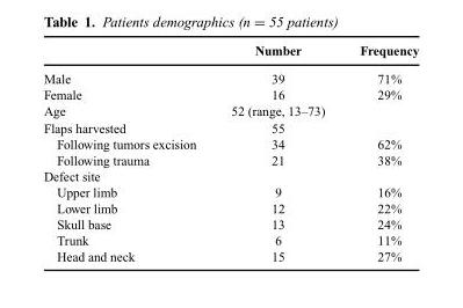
<table><thead><tr><td></td><td>Number</td><td>Frequency</td></tr></thead><tbody><tr><td>Male</td><td>39</td><td>71%</td></tr><tr><td>Female</td><td>16</td><td>29%</td></tr><tr><td>Age</td><td>52 (range, 13–73)</td><td></td></tr><tr><td>Flaps harvested</td><td>55</td><td></td></tr><tr><td>Following tumors excision</td><td>34</td><td>62%</td></tr><tr><td>Following trauma</td><td>21</td><td>38%</td></tr><tr><td colspan="3">Defect site</td></tr><tr><td>Upper limb</td><td>9</td><td>16%</td></tr><tr><td>Lower limb</td><td>12</td><td>22%</td></tr><tr><td>Skull base</td><td>13</td><td>24%</td></tr><tr><td>Trunk</td><td>6</td><td>11%</td></tr><tr><td>Head and neck</td><td>15</td><td>27%</td></tr></tbody></table>